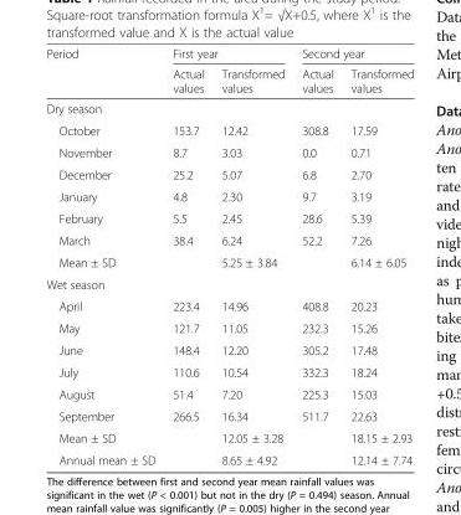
<table><thead><tr><td rowspan="2">Period</td><td colspan="2">First year</td><td colspan="2">Second year</td></tr><tr><td>Actual values</td><td>Transformed values</td><td>Actual values</td><td>Transformed values</td></tr></thead><tbody><tr><td colspan="5">Dry season</td></tr><tr><td>October</td><td>153.7</td><td>12.42</td><td>308.8</td><td>17.59</td></tr><tr><td>November</td><td>8.7</td><td>3.03</td><td>0.0</td><td>0.71</td></tr><tr><td>December</td><td>25.2</td><td>5.07</td><td>6.8</td><td>2.70</td></tr><tr><td>January</td><td>4.8</td><td>2.30</td><td>9.7</td><td>3.19</td></tr><tr><td>February</td><td>5.5</td><td>2.45</td><td>28.6</td><td>5.39</td></tr><tr><td>March</td><td>38.4</td><td>6.24</td><td>52.2</td><td>7.26</td></tr><tr><td>Mean ± SD</td><td></td><td>5.25 ± 3.84</td><td></td><td>6.14 ± 6.05</td></tr><tr><td colspan="5">Wet season</td></tr><tr><td>April</td><td>223.4</td><td>14.96</td><td>408.8</td><td>20.23</td></tr><tr><td>May</td><td>121.7</td><td>11.05</td><td>232.3</td><td>15.26</td></tr><tr><td>June</td><td>148.4</td><td>12.20</td><td>305.2</td><td>17.48</td></tr><tr><td>July</td><td>110.6</td><td>10.54</td><td>332.3</td><td>18.24</td></tr><tr><td>August</td><td>51.4</td><td>7.20</td><td>225.3</td><td>15.03</td></tr><tr><td>September</td><td>266.5</td><td>16.34</td><td>511.7</td><td>22.63</td></tr><tr><td>Mean ± SD</td><td></td><td>12.05 ± 3.28</td><td></td><td>18.15 ± 2.93</td></tr><tr><td>Annual mean ± SD</td><td></td><td>8.65 ± 4.92</td><td></td><td>12.14 ± 7.74</td></tr></tbody></table>